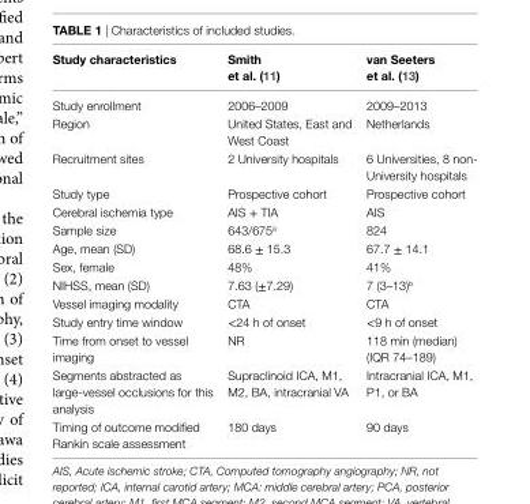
<table><thead><tr><td>Study characteristics</td><td>Smith et al. (11)</td><td>van Seeters et al. (13)</td></tr></thead><tbody><tr><td>Study enrollment</td><td>2006–2009</td><td>2009–2013</td></tr><tr><td>Region</td><td>United States, East and West Coast</td><td>Netherlands</td></tr><tr><td>Recruitment sites</td><td>2 University hospitals</td><td>6 Universities, 8 non- University hospitals</td></tr><tr><td>Study type</td><td>Prospective cohort</td><td>Prospective cohort</td></tr><tr><td>Cerebral ischemia type</td><td>AIS + TIA</td><td>AIS</td></tr><tr><td>Sample size</td><td>643/675<sup>a</sup></td><td>824</td></tr><tr><td>Age, mean (SD)</td><td>68.6 ± 15.3</td><td>67.7 ± 14.1</td></tr><tr><td>Sex, female</td><td>48%</td><td>41%</td></tr><tr><td>NIHSS, mean (SD)</td><td>7.63 (±7.29)</td><td>7 (3–13)<sup>b</sup></td></tr><tr><td>Vessel imaging modality</td><td>CTA</td><td>CTA</td></tr><tr><td>Study entry time window</td><td>&lt;24 h of onset</td><td>&lt;9 h of onset</td></tr><tr><td>Time from onset to vessel imaging</td><td>NR</td><td>118 min (median) (IQR 74–189)</td></tr><tr><td>Segments abstracted as large-vessel occlusions for this analysis</td><td>Supraclinoid ICA, M1, M2, BA, intracranial VA</td><td>Intracranial ICA, M1, P1, or BA</td></tr><tr><td>Timing of outcome modified Rankin scale assessment</td><td>180 days</td><td>90 days</td></tr></tbody></table>